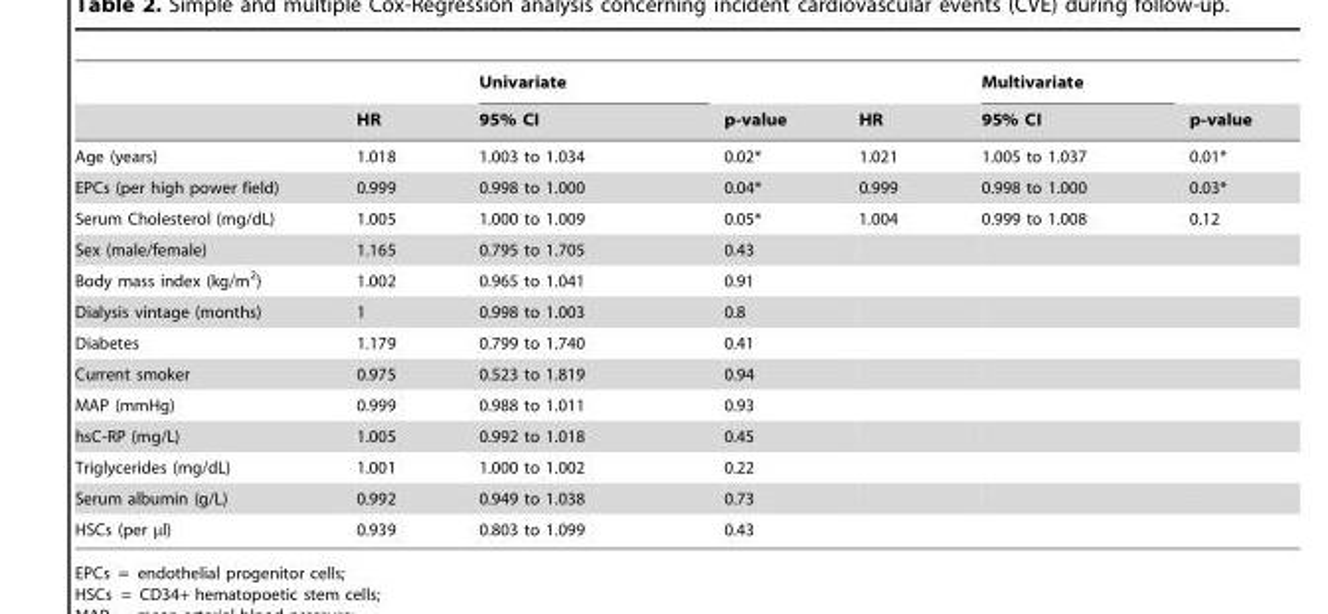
<table><thead><tr><td rowspan="2"></td><td rowspan="2">HR</td><td rowspan="2">Univariate 95% CI</td><td rowspan="2">p-value</td><td rowspan="2">HR</td><td rowspan="2">Multivariate 95% CI</td><td rowspan="2">p-value</td></tr><tr></tr></thead><tbody><tr><td>Age (years)</td><td>1.018</td><td>1.003 to 1.034</td><td>0.02*</td><td>1.021</td><td>1.005 to 1.037</td><td>0.01*</td></tr><tr><td>EPCs (per high power field)</td><td>0.999</td><td>0.998 to 1.000</td><td>0.04*</td><td>0.999</td><td>0.998 to 1.000</td><td>0.03*</td></tr><tr><td>Serum Cholesterol (mg/dL)</td><td>1.005</td><td>1.000 to 1.009</td><td>0.05*</td><td>1.004</td><td>0.999 to 1.008</td><td>0.12</td></tr><tr><td>Sex (male/female)</td><td>1.165</td><td>0.795 to 1.705</td><td>0.43</td><td></td><td></td><td></td></tr><tr><td>Body mass index (kg/m<sup>2</sup>)</td><td>1.002</td><td>0.965 to 1.041</td><td>0.91</td><td></td><td></td><td></td></tr><tr><td>Dialysis vintage (months)</td><td>1</td><td>0.998 to 1.003</td><td>0.8</td><td></td><td></td><td></td></tr><tr><td>Diabetes</td><td>1.179</td><td>0.799 to 1.740</td><td>0.41</td><td></td><td></td><td></td></tr><tr><td>Current smoker</td><td>0.975</td><td>0.523 to 1.819</td><td>0.94</td><td></td><td></td><td></td></tr><tr><td>MAP (mmHg)</td><td>0.999</td><td>0.988 to 1.011</td><td>0.93</td><td></td><td></td><td></td></tr><tr><td>hsC-RP (mg/L)</td><td>1.005</td><td>0.992 to 1.018</td><td>0.45</td><td></td><td></td><td></td></tr><tr><td>Triglycerides (mg/dL)</td><td>1.001</td><td>1.000 to 1.002</td><td>0.22</td><td></td><td></td><td></td></tr><tr><td>Serum albumin (g/L)</td><td>0.992</td><td>0.949 to 1.038</td><td>0.73</td><td></td><td></td><td></td></tr><tr><td>HSCs (per μl)</td><td>0.939</td><td>0.803 to 1.099</td><td>0.43</td><td></td><td></td><td></td></tr></tbody></table>